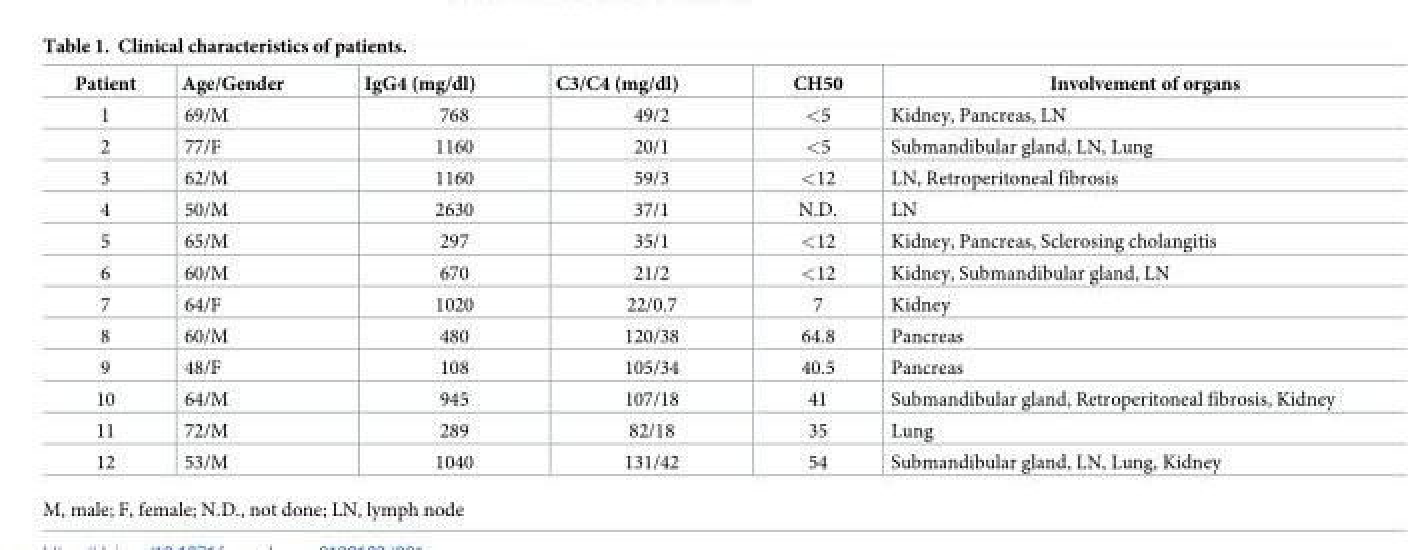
<table><thead><tr><td>Patient</td><td>Age/Gender</td><td>IgG4 (mg/dl)</td><td>C3/C4 (mg/dl)</td><td>CH50</td><td>Involvement of organs</td></tr></thead><tbody><tr><td>1</td><td>69/M</td><td>768</td><td>49/2</td><td>&lt;5</td><td>Kidney, Pancreas, LN</td></tr><tr><td>2</td><td>77/F</td><td>1160</td><td>20/1</td><td>&lt;5</td><td>Submandibular gland, LN, Lung</td></tr><tr><td>3</td><td>62/M</td><td>1160</td><td>59/3</td><td>&lt;12</td><td>LN, Retroperitoneal fibrosis</td></tr><tr><td>4</td><td>50/M</td><td>2630</td><td>37/1</td><td>N.D.</td><td>LN</td></tr><tr><td>5</td><td>65/M</td><td>297</td><td>35/1</td><td>&lt;12</td><td>Kidney, Pancreas, Sclerosing cholangitis</td></tr><tr><td>6</td><td>60/M</td><td>670</td><td>21/2</td><td>&lt;12</td><td>Kidney, Submandibular gland, LN</td></tr><tr><td>7</td><td>64/F</td><td>1020</td><td>22/0.7</td><td>7</td><td>Kidney</td></tr><tr><td>8</td><td>60/M</td><td>480</td><td>120/38</td><td>64.8</td><td>Pancreas</td></tr><tr><td>9</td><td>48/F</td><td>108</td><td>105/34</td><td>40.5</td><td>Pancreas</td></tr><tr><td>10</td><td>64/M</td><td>945</td><td>107/18</td><td>41</td><td>Submandibular gland, Retroperitoneal fibrosis, Kidney</td></tr><tr><td>11</td><td>72/M</td><td>289</td><td>82/18</td><td>35</td><td>Lung</td></tr><tr><td>12</td><td>53/M</td><td>1040</td><td>131/42</td><td>54</td><td>Submandibular gland, LN, Lung, Kidney</td></tr></tbody></table>